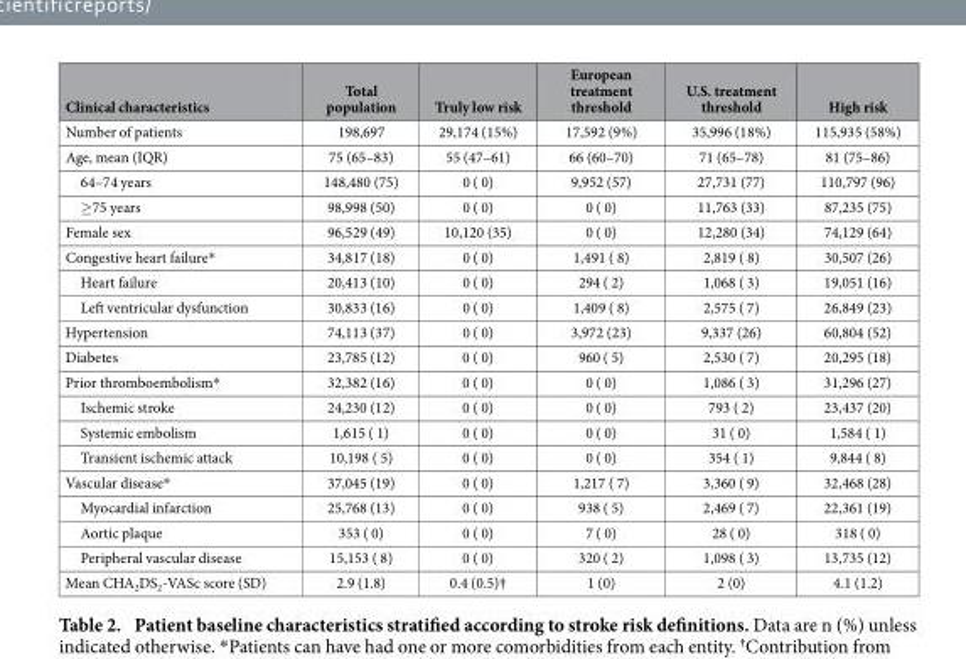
<table><thead><tr><td>Clinical characteristics</td><td>Total population</td><td>Truly low risk</td><td>European treatment threshold</td><td>U.S. treatment threshold</td><td>High risk</td></tr></thead><tbody><tr><td>Number of patients</td><td>198,697</td><td>29,174 (15%)</td><td>17,592 (9%)</td><td>35,996 (18%)</td><td>115,935 (58%)</td></tr><tr><td>Age, mean (IQR)</td><td>75 (65–83)</td><td>55 (47–61)</td><td>66 (60–70)</td><td>71 (65–78)</td><td>81 (75–86)</td></tr><tr><td>64–74 years</td><td>148,480 (75)</td><td>0 ( 0)</td><td>9,952 (57)</td><td>27,731 (77)</td><td>110,797 (96)</td></tr><tr><td>≥ 75 years</td><td>98,998 (50)</td><td>0 ( 0)</td><td>0 ( 0)</td><td>11,763 (33)</td><td>87,235 (75)</td></tr><tr><td>Female sex</td><td>96,529 (49)</td><td>10,120 (35)</td><td>0 ( 0)</td><td>12,280 (34)</td><td>74,129 (64)</td></tr><tr><td>Congestive heart failure*</td><td>34,817 (18)</td><td>0 ( 0)</td><td>1,491 ( 8)</td><td>2,819 ( 8)</td><td>30,507 (26)</td></tr><tr><td>Heart failure</td><td>20,413 (10)</td><td>0 ( 0)</td><td>294 ( 2)</td><td>1,068 ( 3)</td><td>19,051 (16)</td></tr><tr><td>Left ventricular dysfunction</td><td>30,833 (16)</td><td>0 ( 0)</td><td>1,409 ( 8)</td><td>2,575 ( 7)</td><td>26,849 (23)</td></tr><tr><td>Hypertension</td><td>74,113 (37)</td><td>0 ( 0)</td><td>3,972 (23)</td><td>9,337 (26)</td><td>60,804 (52)</td></tr><tr><td>Diabetes</td><td>23,785 (12)</td><td>0 ( 0)</td><td>960 ( 5)</td><td>2,530 ( 7)</td><td>20,295 (18)</td></tr><tr><td>Prior thromboembolism*</td><td>32,382 (16)</td><td>0 ( 0)</td><td>0 ( 0)</td><td>1,086 ( 3)</td><td>31,296 (27)</td></tr><tr><td>Ischemic stroke</td><td>24,230 (12)</td><td>0 ( 0)</td><td>0 ( 0)</td><td>793 ( 2)</td><td>23,437 (20)</td></tr><tr><td>Systemic embolism</td><td>1,615 ( 1)</td><td>0 ( 0)</td><td>0 ( 0)</td><td>31 ( 0)</td><td>1,584 ( 1)</td></tr><tr><td>Transient ischemic attack</td><td>10,198 ( 5)</td><td>0 ( 0)</td><td>0 ( 0)</td><td>354 ( 1)</td><td>9,844 ( 8)</td></tr><tr><td>Vascular disease*</td><td>37,045 (19)</td><td>0 ( 0)</td><td>1,217 ( 7)</td><td>3,360 ( 9)</td><td>32,468 (28)</td></tr><tr><td>Myocardial infarction</td><td>25,768 (13)</td><td>0 ( 0)</td><td>938 ( 5)</td><td>2,469 ( 7)</td><td>22,361 (19)</td></tr><tr><td>Aortic plaque</td><td>353 ( 0)</td><td>0 ( 0)</td><td>7 ( 0)</td><td>28 ( 0)</td><td>318 ( 0)</td></tr><tr><td>Peripheral vascular disease</td><td>15,153 ( 8)</td><td>0 ( 0)</td><td>320 ( 2)</td><td>1,098 ( 3)</td><td>13,735 (12)</td></tr><tr><td>Mean CHA<sub>2</sub>DS<sub>2</sub>-VASc score (SD)</td><td>2.9 (1.8)</td><td>0.4 (0.5)†</td><td>1 (0)</td><td>2 (0)</td><td>4.1 (1.2)</td></tr></tbody></table>